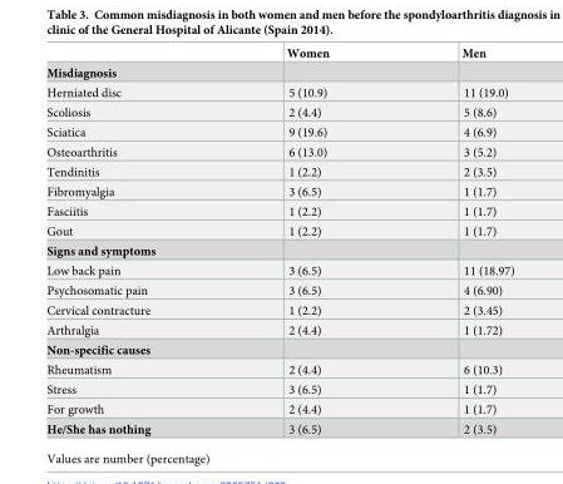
<table><thead><tr><td></td><td>Women</td><td>Men</td></tr></thead><tbody><tr><td colspan="3">Misdiagnosis</td></tr><tr><td>Herniated disc</td><td>5 (10.9)</td><td>11 (19.0)</td></tr><tr><td>Scoliosis</td><td>2 (4.4)</td><td>5 (8.6)</td></tr><tr><td>Sciatica</td><td>9 (19.6)</td><td>4 (6.9)</td></tr><tr><td>Osteoarthritis</td><td>6 (13.0)</td><td>3 (5.2)</td></tr><tr><td>Tendinitis</td><td>1 (2.2)</td><td>2 (3.5)</td></tr><tr><td>Fibromyalgia</td><td>3 (6.5)</td><td>1 (1.7)</td></tr><tr><td>Fasciitis</td><td>1 (2.2)</td><td>1 (1.7)</td></tr><tr><td>Gout</td><td>1 (2.2)</td><td>1 (1.7)</td></tr><tr><td colspan="3">Signs and symptoms</td></tr><tr><td>Low back pain</td><td>3 (6.5)</td><td>11 (18.97)</td></tr><tr><td>Psychosomatic pain</td><td>3 (6.5)</td><td>4 (6.90)</td></tr><tr><td>Cervical contracture</td><td>1 (2.2)</td><td>2 (3.45)</td></tr><tr><td>Arthralgia</td><td>2 (4.4)</td><td>1 (1.72)</td></tr><tr><td colspan="3">Non-specific causes</td></tr><tr><td>Rheumatism</td><td>2 (4.4)</td><td>6 (10.3)</td></tr><tr><td>Stress</td><td>3 (6.5)</td><td>1 (1.7)</td></tr><tr><td>For growth</td><td>2 (4.4)</td><td>1 (1.7)</td></tr><tr><td>He/She has nothing</td><td>3 (6.5)</td><td>2 (3.5)</td></tr></tbody></table>